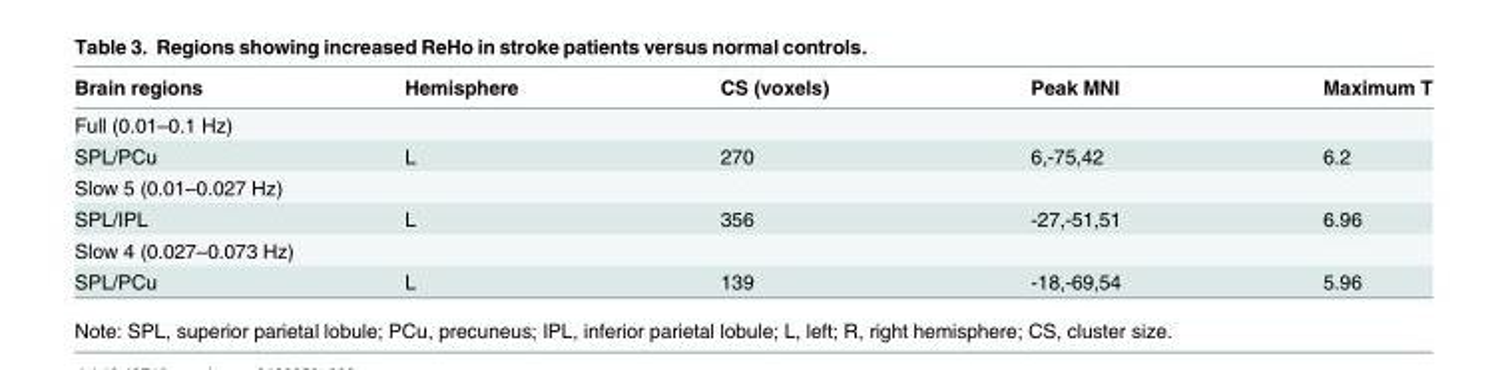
<table><thead><tr><td>Brain regions</td><td>Hemisphere</td><td>CS (voxels)</td><td>Peak MNI</td><td>Maximum T</td></tr></thead><tbody><tr><td colspan="5">Full (0.01–0.1 Hz)</td></tr><tr><td>SPL/PCu</td><td>L</td><td>270</td><td>6,-75,42</td><td>6.2</td></tr><tr><td colspan="5">Slow 5 (0.01–0.027 Hz)</td></tr><tr><td>SPL/IPL</td><td>L</td><td>356</td><td>-27,-51,51</td><td>6.96</td></tr><tr><td colspan="5">Slow 4 (0.027–0.073 Hz)</td></tr><tr><td>SPL/PCu</td><td>L</td><td>139</td><td>-18,-69,54</td><td>5.96</td></tr></tbody></table>